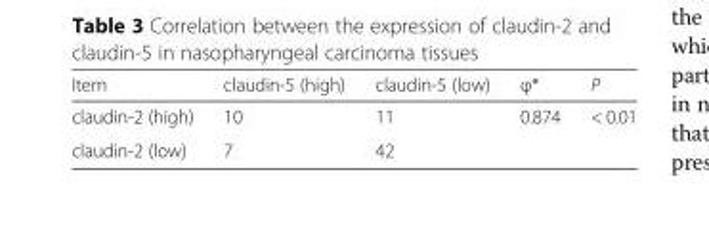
<table><thead><tr><td>Item</td><td>claudin-5 (high)</td><td>claudin-5 (low)</td><td>φ*</td><td>P</td></tr></thead><tbody><tr><td>claudin-2 (high)</td><td>10</td><td>11</td><td>0.874</td><td>&lt; 0.01</td></tr><tr><td>claudin-2 (low)</td><td>7</td><td>42</td><td></td><td></td></tr></tbody></table>